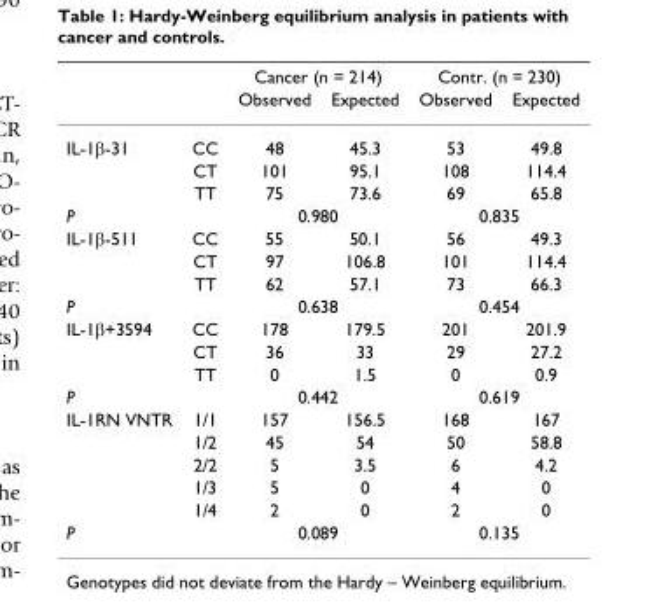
<table><thead><tr><td rowspan="2"></td><td rowspan="2"></td><td colspan="2">Cancer (n = 214)</td><td colspan="2">Contr. (n = 230)</td></tr><tr><td>Observed</td><td>Expected</td><td>Observed</td><td>Expected</td></tr></thead><tbody><tr><td rowspan="3">IL-1β-31</td><td>CC</td><td>48</td><td>45.3</td><td>53</td><td>49.8</td></tr><tr><td>CT</td><td>101</td><td>95.1</td><td>108</td><td>114.4</td></tr><tr><td>TT</td><td>75</td><td>73.6</td><td>69</td><td>65.8</td></tr><tr><td>P</td><td></td><td colspan="2">0.980</td><td colspan="2">0.835</td></tr><tr><td rowspan="3">IL-1β-511</td><td>CC</td><td>55</td><td>50.1</td><td>56</td><td>49.3</td></tr><tr><td>CT</td><td>97</td><td>106.8</td><td>101</td><td>114.4</td></tr><tr><td>TT</td><td>62</td><td>57.1</td><td>73</td><td>66.3</td></tr><tr><td>P</td><td></td><td colspan="2">0.638</td><td colspan="2">0.454</td></tr><tr><td rowspan="3">IL-1β+3594</td><td>CC</td><td>178</td><td>179.5</td><td>201</td><td>201.9</td></tr><tr><td>CT</td><td>36</td><td>33</td><td>29</td><td>27.2</td></tr><tr><td>TT</td><td>0</td><td>1.5</td><td>0</td><td>0.9</td></tr><tr><td>P</td><td></td><td colspan="2">0.442</td><td colspan="2">0.619</td></tr><tr><td rowspan="5">IL-1RN VNTR</td><td>1/1</td><td>157</td><td>156.5</td><td>168</td><td>167</td></tr><tr><td>1/2</td><td>45</td><td>54</td><td>50</td><td>58.8</td></tr><tr><td>2/2</td><td>5</td><td>3.5</td><td>6</td><td>4.2</td></tr><tr><td>1/3</td><td>5</td><td>0</td><td>4</td><td>0</td></tr><tr><td>1/4</td><td>2</td><td>0</td><td>2</td><td>0</td></tr><tr><td>P</td><td></td><td colspan="2">0.089</td><td colspan="2">0.135</td></tr></tbody></table>